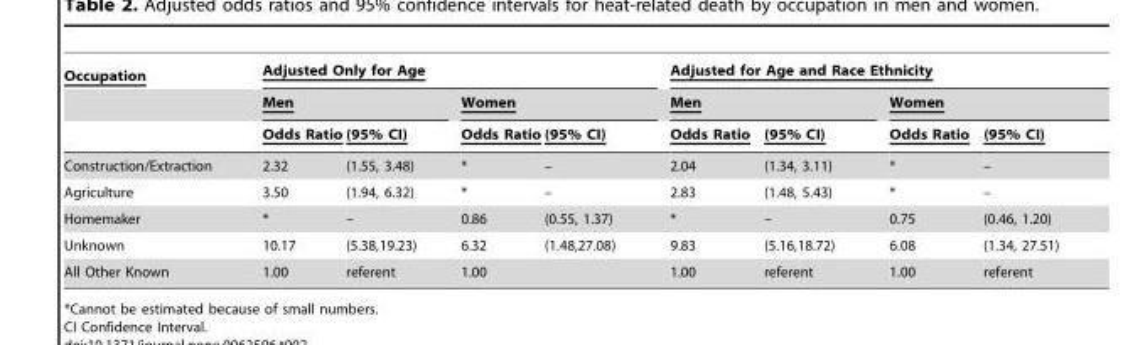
<table><thead><tr><td rowspan="3">Occupation</td><td colspan="4">Adjusted Only for Age</td><td colspan="4">Adjusted for Age and Race Ethnicity</td></tr><tr><td colspan="2">Men</td><td colspan="2">Women</td><td colspan="2">Men</td><td colspan="2">Women</td></tr><tr><td>Odds Ratio</td><td>(95% CI)</td><td>Odds Ratio</td><td>(95% CI)</td><td>Odds Ratio</td><td>(95% CI)</td><td>Odds Ratio</td><td>(95% CI)</td></tr></thead><tbody><tr><td>Construction/Extraction</td><td>2.32</td><td>(1.55, 3.48)</td><td>*</td><td>–</td><td>2.04</td><td>(1.34, 3.11)</td><td>*</td><td>–</td></tr><tr><td>Agriculture</td><td>3.50</td><td>(1.94, 6.32)</td><td>*</td><td>–</td><td>2.83</td><td>(1.48, 5.43)</td><td>*</td><td>–</td></tr><tr><td>Homemaker</td><td>*</td><td>–</td><td>0.86</td><td>(0.55, 1.37)</td><td>*</td><td>–</td><td>0.75</td><td>(0.46, 1.20)</td></tr><tr><td>Unknown</td><td>10.17</td><td>(5.38,19.23)</td><td>6.32</td><td>(1.48,27.08)</td><td>9.83</td><td>(5.16,18.72)</td><td>6.08</td><td>(1.34, 27.51)</td></tr><tr><td>All Other Known</td><td>1.00</td><td>referent</td><td>1.00</td><td></td><td>1.00</td><td>referent</td><td>1.00</td><td>referent</td></tr></tbody></table>